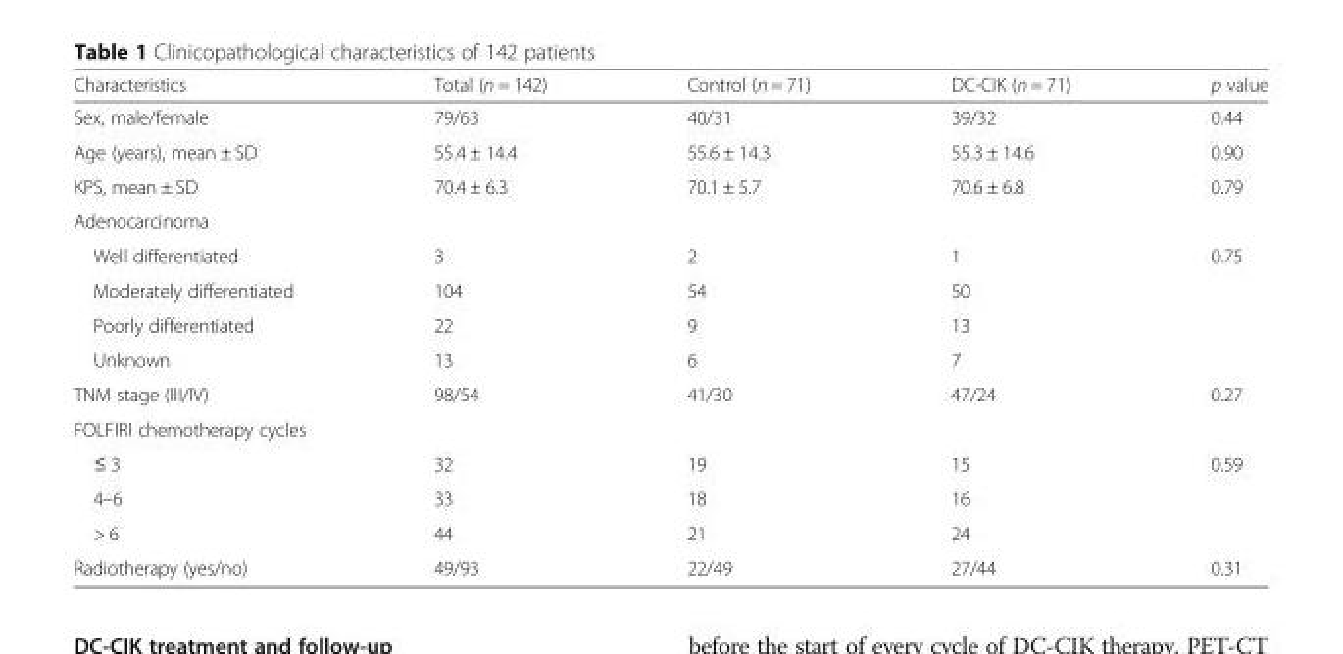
<table><thead><tr><td>Characteristics</td><td>Total (n = 142)</td><td>Control (n = 71)</td><td>DC-CIK (n = 71)</td><td>p value</td></tr></thead><tbody><tr><td>Sex, male/female</td><td>79/63</td><td>40/31</td><td>39/32</td><td>0.44</td></tr><tr><td>Age (years), mean ± SD</td><td>55.4 ± 14.4</td><td>55.6 ± 14.3</td><td>55.3 ± 14.6</td><td>0.90</td></tr><tr><td>KPS, mean ± SD</td><td>70.4 ± 6.3</td><td>70.1 ± 5.7</td><td>70.6 ± 6.8</td><td>0.79</td></tr><tr><td colspan="5">Adenocarcinoma</td></tr><tr><td>Well differentiated</td><td>3</td><td>2</td><td>1</td><td>0.75</td></tr><tr><td>Moderately differentiated</td><td>104</td><td>54</td><td>50</td><td></td></tr><tr><td>Poorly differentiated</td><td>22</td><td>9</td><td>13</td><td></td></tr><tr><td>Unknown</td><td>13</td><td>6</td><td>7</td><td></td></tr><tr><td>TNM stage (III/IV)</td><td>98/54</td><td>41/30</td><td>47/24</td><td>0.27</td></tr><tr><td colspan="5">FOLFIRI chemotherapy cycles</td></tr><tr><td>≤ 3</td><td>32</td><td>19</td><td>15</td><td>0.59</td></tr><tr><td>4–6</td><td>33</td><td>18</td><td>16</td><td></td></tr><tr><td>&gt; 6</td><td>44</td><td>21</td><td>24</td><td></td></tr><tr><td>Radiotherapy (yes/no)</td><td>49/93</td><td>22/49</td><td>27/44</td><td>0.31</td></tr></tbody></table>